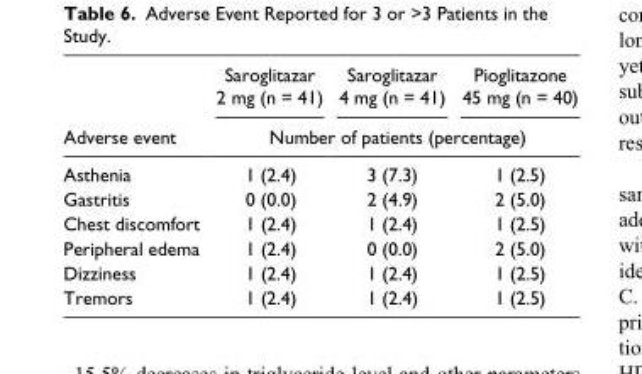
<table><thead><tr><td rowspan="2">Adverse event</td><td>Saroglitazar 2 mg (n = 41)</td><td>Saroglitazar 4 mg (n = 41)</td><td>Pioglitazone 45 mg (n = 40)</td></tr><tr><td colspan="3">Number of patients (percentage)</td></tr></thead><tbody><tr><td>Asthenia</td><td>1 (2.4)</td><td>3 (7.3)</td><td>1 (2.5)</td></tr><tr><td>Gastritis</td><td>0 (0.0)</td><td>2 (4.9)</td><td>2 (5.0)</td></tr><tr><td>Chest discomfort</td><td>1 (2.4)</td><td>1 (2.4)</td><td>1 (2.5)</td></tr><tr><td>Peripheral edema</td><td>1 (2.4)</td><td>0 (0.0)</td><td>2 (5.0)</td></tr><tr><td>Dizziness</td><td>1 (2.4)</td><td>1 (2.4)</td><td>1 (2.5)</td></tr><tr><td>Tremors</td><td>1 (2.4)</td><td>1 (2.4)</td><td>1 (2.5)</td></tr></tbody></table>